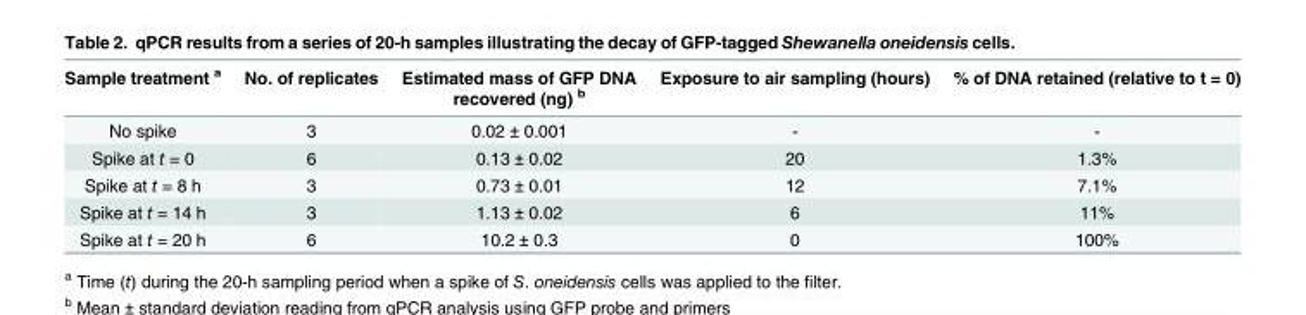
<table><thead><tr><td>Sample treatment <sup>a</sup></td><td>No. of replicates</td><td>Estimated mass of GFP DNA recovered (ng) <sup>b</sup></td><td>Exposure to air sampling (hours)</td><td>% of DNA retained (relative to t = 0)</td></tr></thead><tbody><tr><td>No spike</td><td>3</td><td>0.02 ± 0.001</td><td>-</td><td>-</td></tr><tr><td>Spike at t = 0</td><td>6</td><td>0.13 ± 0.02</td><td>20</td><td>1.3%</td></tr><tr><td>Spike at t = 8 h</td><td>3</td><td>0.73 ± 0.01</td><td>12</td><td>7.1%</td></tr><tr><td>Spike at t = 14 h</td><td>3</td><td>1.13 ± 0.02</td><td>6</td><td>11%</td></tr><tr><td>Spike at t = 20 h</td><td>6</td><td>10.2 ± 0.3</td><td>0</td><td>100%</td></tr></tbody></table>